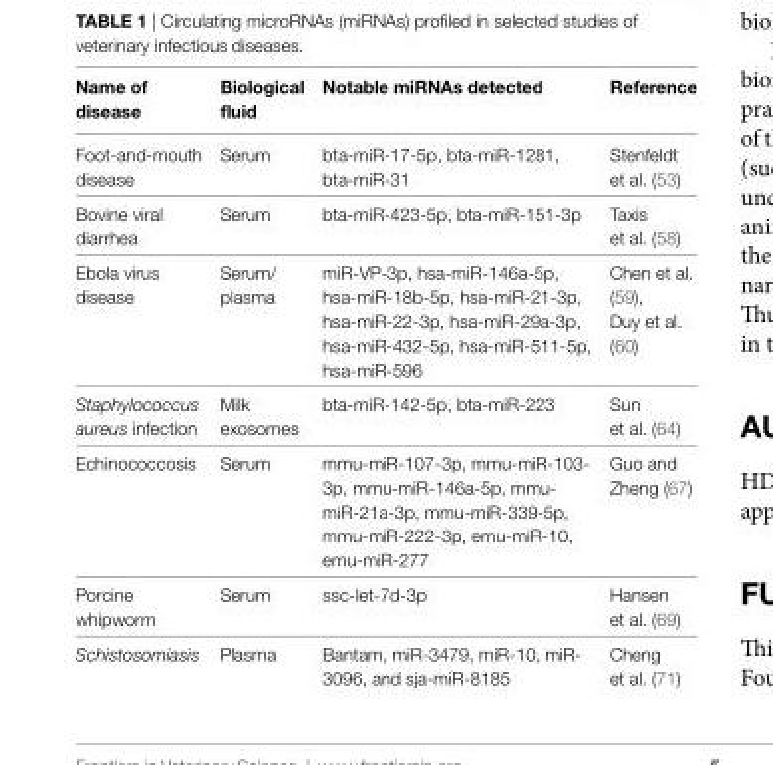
<table><thead><tr><td>Name of disease</td><td>Biological fluid</td><td>Notable miRNAs detected</td><td>Reference</td></tr></thead><tbody><tr><td>Foot-and-mouth disease</td><td>Serum</td><td>bta-miR-17-5p, bta-miR-1281, bta-miR-31</td><td>Stenfeldt et al. (53)</td></tr><tr><td>Bovine viral diarrhea</td><td>Serum</td><td>bta-miR-423-5p, bta-miR-151-3p</td><td>Taxis et al. (58)</td></tr><tr><td>Ebola virus disease</td><td>Serum/ plasma</td><td>miR-VP-3p, hsa-miR-146a-5p, hsa-miR-18b-5p, hsa-miR-21-3p, hsa-miR-22-3p, hsa-miR-29a-3p, hsa-miR-432-5p, hsa-miR-511-5p, hsa-miR-596</td><td>Chen et al. (59), Duy et al. (60)</td></tr><tr><td>Staphylococcus aureus infection</td><td>Milk exosomes</td><td>bta-miR-142-5p, bta-miR-223</td><td>Sun et al. (64)</td></tr><tr><td>Echinococcosis</td><td>Serum</td><td>mmu-miR-107-3p, mmu-miR-103- 3p, mmu-miR-146a-5p, mmu- miR-21a-3p, mmu-miR-339-5p, mmu-miR-222-3p, emu-miR-10, emu-miR-277</td><td>Guo and Zheng (67)</td></tr><tr><td>Porcine whipworm</td><td>Serum</td><td>ssc-let-7d-3p</td><td>Hansen et al. (69)</td></tr><tr><td>Schistosomiasis</td><td>Plasma</td><td>Bantam, miR-3479, miR-10, miR- 3096, and sja-miR-8185</td><td>Cheng et al. (71)</td></tr></tbody></table>